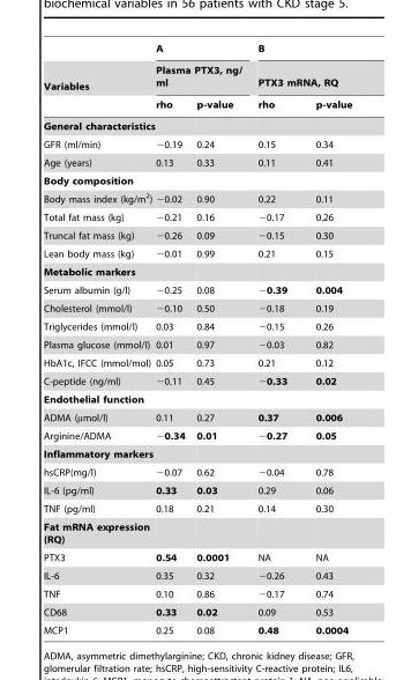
<table><thead><tr><td rowspan="3">Variables</td><td rowspan="2" colspan="2">A Plasma PTX3, ng/ ml</td><td rowspan="2" colspan="2">B PTX3 mRNA, RQ</td></tr><tr></tr><tr><td>rho</td><td>p-value</td><td>rho</td><td>p-value</td></tr></thead><tbody><tr><td colspan="5">General characteristics</td></tr><tr><td>GFR (ml/min)</td><td>−0.19</td><td>0.24</td><td>0.15</td><td>0.34</td></tr><tr><td>Age (years)</td><td>0.13</td><td>0.33</td><td>0.11</td><td>0.41</td></tr><tr><td colspan="5">Body composition</td></tr><tr><td>Body mass index (kg/m<sup>2</sup>)</td><td>−0.02</td><td>0.90</td><td>0.22</td><td>0.11</td></tr><tr><td>Total fat mass (kg)</td><td>−0.21</td><td>0.16</td><td>−0.17</td><td>0.26</td></tr><tr><td>Truncal fat mass (kg)</td><td>−0.26</td><td>0.09</td><td>−0.15</td><td>0.30</td></tr><tr><td>Lean body mass (kg)</td><td>−0.01</td><td>0.99</td><td>0.21</td><td>0.15</td></tr><tr><td colspan="5">Metabolic markers</td></tr><tr><td>Serum albumin (g/l)</td><td>−0.25</td><td>0.08</td><td>−0.39</td><td>0.004</td></tr><tr><td>Cholesterol (mmol/l)</td><td>−0.10</td><td>0.50</td><td>−0.18</td><td>0.19</td></tr><tr><td>Triglycerides (mmol/l)</td><td>0.03</td><td>0.84</td><td>−0.15</td><td>0.26</td></tr><tr><td>Plasma glucose (mmol/l)</td><td>0.01</td><td>0.97</td><td>−0.03</td><td>0.82</td></tr><tr><td>HbA1c, IFCC (mmol/mol)</td><td>0.05</td><td>0.73</td><td>0.21</td><td>0.12</td></tr><tr><td>C-peptide (ng/ml)</td><td>−0.11</td><td>0.45</td><td>−0.33</td><td>0.02</td></tr><tr><td colspan="5">Endothelial function</td></tr><tr><td>ADMA (µmol/l)</td><td>0.11</td><td>0.27</td><td>0.37</td><td>0.006</td></tr><tr><td>Arginine/ADMA</td><td>−0.34</td><td>0.01</td><td>−0.27</td><td>0.05</td></tr><tr><td colspan="5">Inflammatory markers</td></tr><tr><td>hsCRP(mg/l)</td><td>−0.07</td><td>0.62</td><td>−0.04</td><td>0.78</td></tr><tr><td>IL-6 (pg/ml)</td><td>0.33</td><td>0.03</td><td>0.29</td><td>0.06</td></tr><tr><td>TNF (pg/ml)</td><td>0.18</td><td>0.21</td><td>0.14</td><td>0.30</td></tr><tr><td colspan="5">Fat mRNA expression (RQ)</td></tr><tr><td>PTX3</td><td>0.54</td><td>0.0001</td><td>NA</td><td>NA</td></tr><tr><td>IL-6</td><td>0.35</td><td>0.32</td><td>−0.26</td><td>0.43</td></tr><tr><td>TNF</td><td>0.10</td><td>0.86</td><td>−0.17</td><td>0.74</td></tr><tr><td>CD68</td><td>0.33</td><td>0.02</td><td>0.09</td><td>0.53</td></tr><tr><td>MCP1</td><td>0.25</td><td>0.08</td><td>0.48</td><td>0.0004</td></tr></tbody></table>